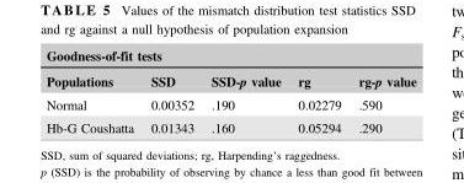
<table><thead><tr><td colspan="5">Goodness-of-fit tests</td></tr><tr><td>Populations</td><td>SSD</td><td>SSD-p value</td><td>rg</td><td>rg-p value</td></tr></thead><tbody><tr><td>Normal</td><td>0.00352</td><td>.190</td><td>0.02279</td><td>.590</td></tr><tr><td>Hb-G Coushatta</td><td>0.01343</td><td>.160</td><td>0.05294</td><td>.290</td></tr></tbody></table>